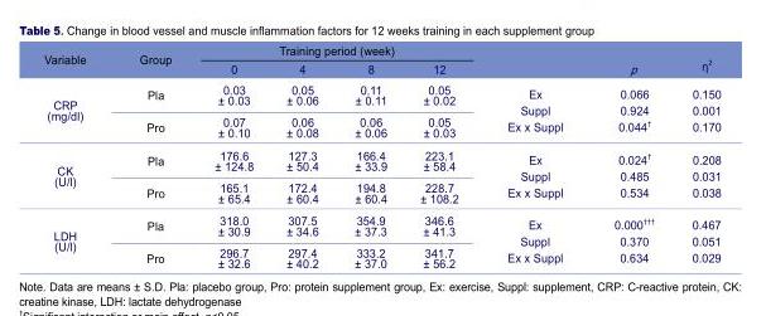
<table><thead><tr><td rowspan="2">Variable</td><td rowspan="2">Group</td><td colspan="4">Training period (week)</td><td rowspan="2"></td><td rowspan="2">p</td><td rowspan="2">η <sup>2</sup></td></tr><tr><td>0</td><td>4</td><td>8</td><td>12</td></tr></thead><tbody><tr><td rowspan="2">CRP (mg/dl)</td><td>Pla</td><td>0.03 ± 0.03</td><td>0.05 ± 0.06</td><td>0.11 ± 0.11</td><td>0.05 ± 0.02</td><td rowspan="2">Ex Suppl Ex x Suppl</td><td rowspan="2">0.066 0.924 0.044 <sup>†</sup></td><td rowspan="2">0.150 0.001 0.170</td></tr><tr><td>Pro</td><td>0.07 ± 0.10</td><td>0.06 ± 0.08</td><td>0.06 ± 0.06</td><td>0.05 ± 0.03</td></tr><tr><td rowspan="2">CK (U/l)</td><td>Pla</td><td>176.6 ± 124.8</td><td>127.3 ± 50.4</td><td>166.4 ± 33.9</td><td>223.1 ± 58.4</td><td rowspan="2">Ex Suppl Ex x Suppl</td><td rowspan="2">0.024 <sup>†</sup> 0.485 0.534</td><td rowspan="2">0.208 0.031 0.038</td></tr><tr><td>Pro</td><td>165.1 ± 65.4</td><td>172.4 ± 60.4</td><td>194.8 ± 60.4</td><td>228.7 ± 108.2</td></tr><tr><td rowspan="2">LDH (U/l)</td><td>Pla</td><td>318.0 ± 30.9</td><td>307.5 ± 34.6</td><td>354.9 ± 37.3</td><td>346.6 ± 41.3</td><td rowspan="2">Ex Suppl Ex x Suppl</td><td rowspan="2">0.000 <sup>†††</sup> 0.370 0.634</td><td rowspan="2">0.467 0.051 0.029</td></tr><tr><td>Pro</td><td>296.7 ± 32.6</td><td>297.4 ± 40.2</td><td>333.2 ± 37.0</td><td>341.7 ± 56.2</td></tr></tbody></table>